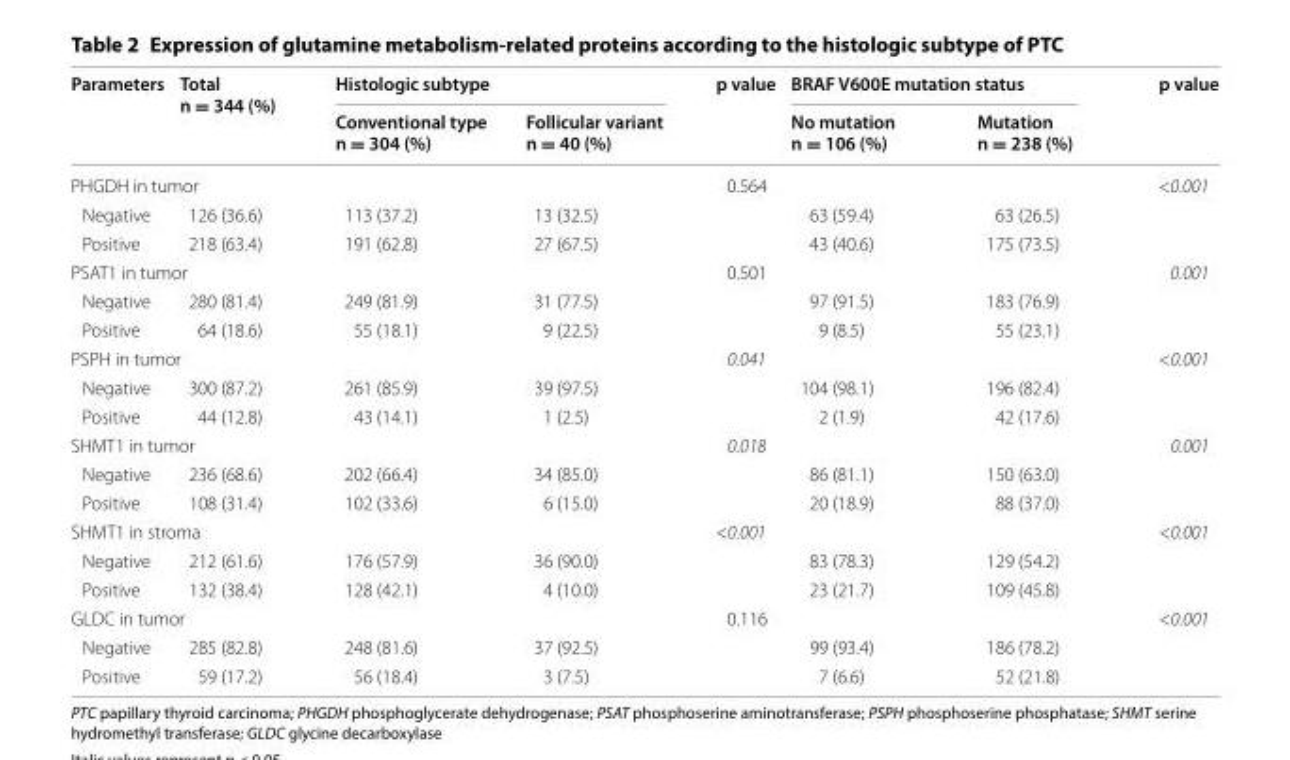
<table><thead><tr><td rowspan="2">Parameters</td><td rowspan="2">Total n = 344 (%)</td><td colspan="2">Histologic subtype</td><td rowspan="2">p value</td><td colspan="2">BRAF V600E mutation status</td><td rowspan="2">p value</td></tr><tr><td>Conventional type n = 304 (%)</td><td>Follicular variant n = 40 (%)</td><td>No mutation n = 106 (%)</td><td>Mutation n = 238 (%)</td></tr></thead><tbody><tr><td colspan="4">PHGDH in tumor</td><td>0.564</td><td colspan="2"></td><td>&lt;0.001</td></tr><tr><td>Negative</td><td>126 (36.6)</td><td>113 (37.2)</td><td>13 (32.5)</td><td></td><td>63 (59.4)</td><td>63 (26.5)</td><td></td></tr><tr><td>Positive</td><td>218 (63.4)</td><td>191 (62.8)</td><td>27 (67.5)</td><td></td><td>43 (40.6)</td><td>175 (73.5)</td><td></td></tr><tr><td colspan="4">PSAT1 in tumor</td><td>0.501</td><td colspan="2"></td><td>0.001</td></tr><tr><td>Negative</td><td>280 (81.4)</td><td>249 (81.9)</td><td>31 (77.5)</td><td></td><td>97 (91.5)</td><td>183 (76.9)</td><td></td></tr><tr><td>Positive</td><td>64 (18.6)</td><td>55 (18.1)</td><td>9 (22.5)</td><td></td><td>9 (8.5)</td><td>55 (23.1)</td><td></td></tr><tr><td colspan="4">PSPH in tumor</td><td>0.041</td><td colspan="2"></td><td>&lt;0.001</td></tr><tr><td>Negative</td><td>300 (87.2)</td><td>261 (85.9)</td><td>39 (97.5)</td><td></td><td>104 (98.1)</td><td>196 (82.4)</td><td></td></tr><tr><td>Positive</td><td>44 (12.8)</td><td>43 (14.1)</td><td>1 (2.5)</td><td></td><td>2 (1.9)</td><td>42 (17.6)</td><td></td></tr><tr><td colspan="4">SHMT1 in tumor</td><td>0.018</td><td colspan="2"></td><td>0.001</td></tr><tr><td>Negative</td><td>236 (68.6)</td><td>202 (66.4)</td><td>34 (85.0)</td><td></td><td>86 (81.1)</td><td>150 (63.0)</td><td></td></tr><tr><td>Positive</td><td>108 (31.4)</td><td>102 (33.6)</td><td>6 (15.0)</td><td></td><td>20 (18.9)</td><td>88 (37.0)</td><td></td></tr><tr><td colspan="4">SHMT1 in stroma</td><td>&lt;0.001</td><td colspan="2"></td><td>&lt;0.001</td></tr><tr><td>Negative</td><td>212 (61.6)</td><td>176 (57.9)</td><td>36 (90.0)</td><td></td><td>83 (78.3)</td><td>129 (54.2)</td><td></td></tr><tr><td>Positive</td><td>132 (38.4)</td><td>128 (42.1)</td><td>4 (10.0)</td><td></td><td>23 (21.7)</td><td>109 (45.8)</td><td></td></tr><tr><td colspan="4">GLDC in tumor</td><td>0.116</td><td colspan="2"></td><td>&lt;0.001</td></tr><tr><td>Negative</td><td>285 (82.8)</td><td>248 (81.6)</td><td>37 (92.5)</td><td></td><td>99 (93.4)</td><td>186 (78.2)</td><td></td></tr><tr><td>Positive</td><td>59 (17.2)</td><td>56 (18.4)</td><td>3 (7.5)</td><td></td><td>7 (6.6)</td><td>52 (21.8)</td><td></td></tr></tbody></table>